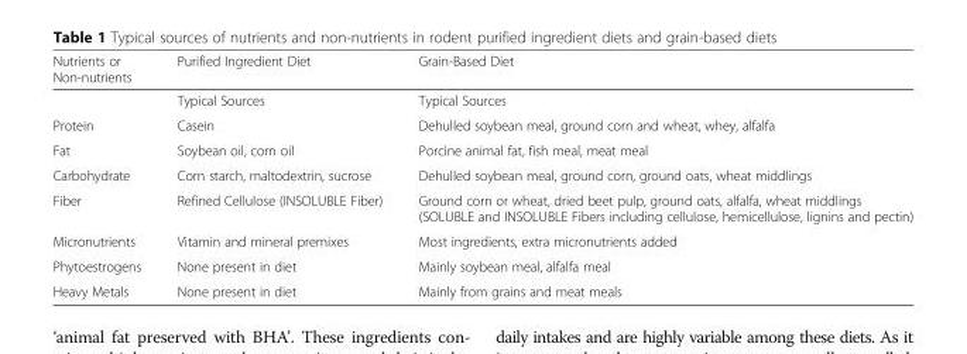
<table><thead><tr><td>Nutrients or Non-nutrients</td><td>Purified Ingredient Diet</td><td>Grain-Based Diet</td></tr></thead><tbody><tr><td></td><td>Typical Sources</td><td>Typical Sources</td></tr><tr><td>Protein</td><td>Casein</td><td>Dehulled soybean meal, ground corn and wheat, whey, alfalfa</td></tr><tr><td>Fat</td><td>Soybean oil, corn oil</td><td>Porcine animal fat, fish meal, meat meal</td></tr><tr><td>Carbohydrate</td><td>Corn starch, maltodextrin, sucrose</td><td>Dehulled soybean meal, ground corn, ground oats, wheat middlings</td></tr><tr><td>Fiber</td><td>Refined Cellulose (INSOLUBLE Fiber)</td><td>Ground corn or wheat, dried beet pulp, ground oats, alfalfa, wheat middlings (SOLUBLE and INSOLUBLE Fibers including cellulose, hemicellulose, lignins and pectin)</td></tr><tr><td>Micronutrients</td><td>Vitamin and mineral premixes</td><td>Most ingredients, extra micronutrients added</td></tr><tr><td>Phytoestrogens</td><td>None present in diet</td><td>Mainly soybean meal, alfalfa meal</td></tr><tr><td>Heavy Metals</td><td>None present in diet</td><td>Mainly from grains and meat meals</td></tr></tbody></table>